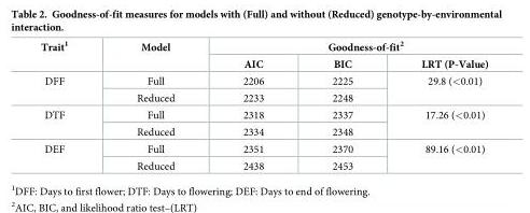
<table><thead><tr><td rowspan="2">Trait<sup>1</sup></td><td rowspan="2">Model</td><td colspan="3">Goodness-of-fit<sup>2</sup></td></tr><tr><td>AIC</td><td>BIC</td><td>LRT (P-Value)</td></tr></thead><tbody><tr><td rowspan="2">DFF</td><td>Full</td><td>2206</td><td>2225</td><td rowspan="2">29.8 (&lt;0.01)</td></tr><tr><td>Reduced</td><td>2233</td><td>2248</td></tr><tr><td rowspan="2">DTF</td><td>Full</td><td>2318</td><td>2337</td><td rowspan="2">17.26 (&lt;0.01)</td></tr><tr><td>Reduced</td><td>2334</td><td>2348</td></tr><tr><td rowspan="2">DEF</td><td>Full</td><td>2351</td><td>2370</td><td rowspan="2">89.16 (&lt;0.01)</td></tr><tr><td>Reduced</td><td>2438</td><td>2453</td></tr></tbody></table>